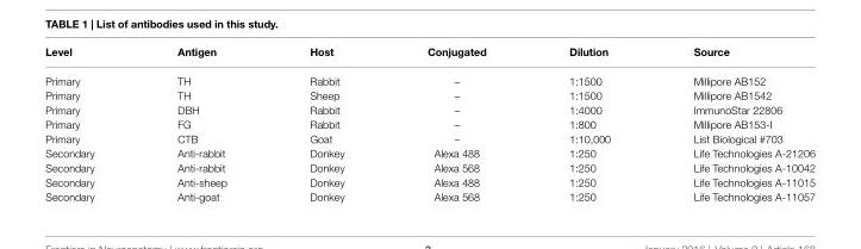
<table><thead><tr><td>Level</td><td>Antigen</td><td>Host</td><td>Conjugated</td><td>Dilution</td><td>Source</td></tr></thead><tbody><tr><td>Primary</td><td>TH</td><td>Rabbit</td><td>–</td><td>1:1500</td><td>Millipore AB152</td></tr><tr><td>Primary</td><td>TH</td><td>Sheep</td><td>–</td><td>1:1500</td><td>Millipore AB1542</td></tr><tr><td>Primary</td><td>DBH</td><td>Rabbit</td><td>–</td><td>1:4000</td><td>ImmunoStar 22806</td></tr><tr><td>Primary</td><td>FG</td><td>Rabbit</td><td>–</td><td>1:800</td><td>Millipore AB153-I</td></tr><tr><td>Primary</td><td>CTB</td><td>Goat</td><td>–</td><td>1:10,000</td><td>List Biological #703</td></tr><tr><td>Secondary</td><td>Anti-rabbit</td><td>Donkey</td><td>Alexa 488</td><td>1:250</td><td>Life Technologies A-21206</td></tr><tr><td>Secondary</td><td>Anti-rabbit</td><td>Donkey</td><td>Alexa 568</td><td>1:250</td><td>Life Technologies A-10042</td></tr><tr><td>Secondary</td><td>Anti-sheep</td><td>Donkey</td><td>Alexa 488</td><td>1:250</td><td>Life Technologies A-11015</td></tr><tr><td>Secondary</td><td>Anti-goat</td><td>Donkey</td><td>Alexa 568</td><td>1:250</td><td>Life Technologies A-11057</td></tr></tbody></table>